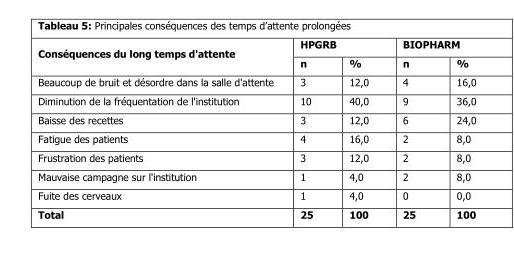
<table><thead><tr><td rowspan="2">Conséquences du long temps d&#x27;attente</td><td colspan="2">HPGRB</td><td colspan="2">BIOPHARM</td></tr><tr><td>n</td><td>%</td><td>n</td><td>%</td></tr></thead><tbody><tr><td>Beaucoup de bruit et désordre dans la salle d&#x27;attente</td><td>3</td><td>12,0</td><td>4</td><td>16,0</td></tr><tr><td>Diminution de la fréquentation de l&#x27;institution</td><td>10</td><td>40,0</td><td>9</td><td>36,0</td></tr><tr><td>Baisse des recettes</td><td>3</td><td>12,0</td><td>6</td><td>24,0</td></tr><tr><td>Fatigue des patients</td><td>4</td><td>16,0</td><td>2</td><td>8,0</td></tr><tr><td>Frustration des patients</td><td>3</td><td>12,0</td><td>2</td><td>8,0</td></tr><tr><td>Mauvaise campagne sur l&#x27;institution</td><td>1</td><td>4,0</td><td>2</td><td>8,0</td></tr><tr><td>Fuite des cerveaux</td><td>1</td><td>4,0</td><td>0</td><td>0,0</td></tr><tr><td>Total</td><td>25</td><td>100</td><td>25</td><td>100</td></tr></tbody></table>